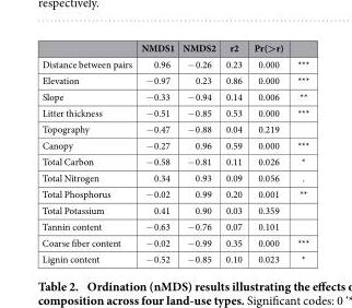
<table><thead><tr><td></td><td>NMDS1</td><td>NMDS2</td><td>r2</td><td>Pr(&gt;r)</td><td></td></tr></thead><tbody><tr><td>Distance between pairs</td><td>0.96</td><td>− 0.26</td><td>0.23</td><td>0.000</td><td>***</td></tr><tr><td>Elevation</td><td>− 0.97</td><td>0.23</td><td>0.86</td><td>0.000</td><td>***</td></tr><tr><td>Slope</td><td>− 0.33</td><td>− 0.94</td><td>0.14</td><td>0.006</td><td>**</td></tr><tr><td>Litter thickness</td><td>− 0.51</td><td>− 0.85</td><td>0.53</td><td>0.000</td><td>***</td></tr><tr><td>Topography</td><td>− 0.47</td><td>− 0.88</td><td>0.04</td><td>0.219</td><td></td></tr><tr><td>Canopy</td><td>− 0.27</td><td>0.96</td><td>0.59</td><td>0.000</td><td>***</td></tr><tr><td>Total Carbon</td><td>− 0.58</td><td>− 0.81</td><td>0.11</td><td>0.026</td><td>*</td></tr><tr><td>Total Nitrogen</td><td>0.34</td><td>0.93</td><td>0.09</td><td>0.056</td><td>.</td></tr><tr><td>Total Phosphorus</td><td>− 0.02</td><td>0.99</td><td>0.20</td><td>0.001</td><td>**</td></tr><tr><td>Total Potassium</td><td>0.41</td><td>0.90</td><td>0.03</td><td>0.359</td><td></td></tr><tr><td>Tannin content</td><td>− 0.63</td><td>− 0.76</td><td>0.07</td><td>0.101</td><td></td></tr><tr><td>Coarse fiber content</td><td>− 0.02</td><td>− 0.99</td><td>0.35</td><td>0.000</td><td>***</td></tr><tr><td>Lignin content</td><td>− 0.52</td><td>− 0.85</td><td>0.10</td><td>0.023</td><td>*</td></tr></tbody></table>